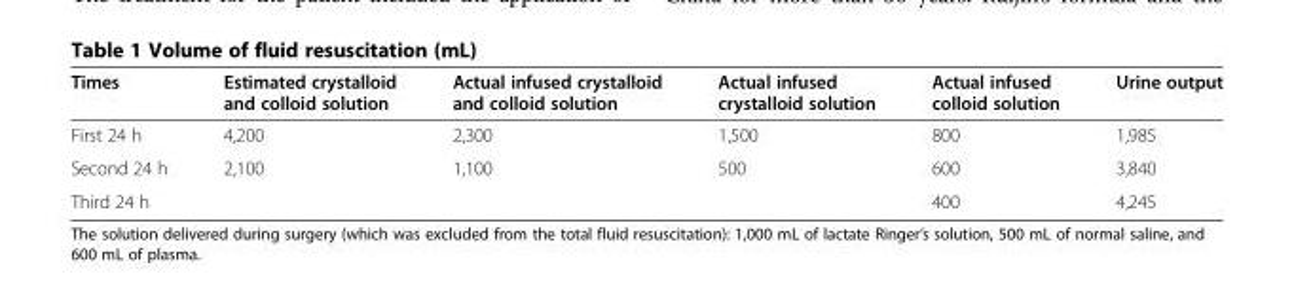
<table><thead><tr><td>Times</td><td>Estimated crystalloid and colloid solution</td><td>Actual infused crystalloid and colloid solution</td><td>Actual infused crystalloid solution</td><td>Actual infused colloid solution</td><td>Urine output</td></tr></thead><tbody><tr><td>First 24 h</td><td>4,200</td><td>2,300</td><td>1,500</td><td>800</td><td>1,985</td></tr><tr><td>Second 24 h</td><td>2,100</td><td>1,100</td><td>500</td><td>600</td><td>3,840</td></tr><tr><td>Third 24 h</td><td></td><td></td><td></td><td>400</td><td>4,245</td></tr></tbody></table>